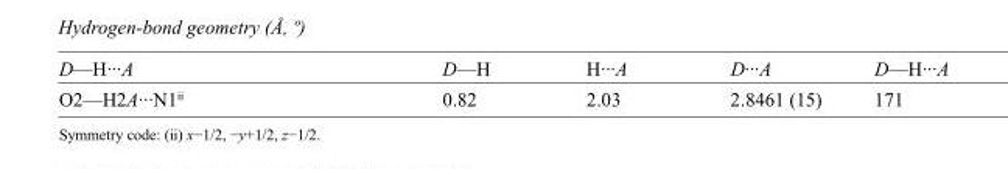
<table><tbody><tr><td>D—H···A</td><td>D—H</td><td>H···A</td><td>D···A</td><td>D—H···A</td></tr><tr><td>O2—H2A···N1<sup>ii</sup></td><td>0.82</td><td>2.03</td><td>2.8461 (15)</td><td>171</td></tr></tbody></table>